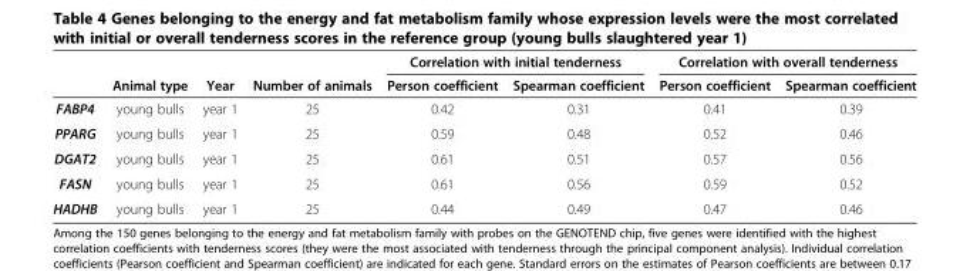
<table><thead><tr><td rowspan="2"></td><td rowspan="2">Animal type</td><td rowspan="2">Year</td><td rowspan="2">Number of animals</td><td colspan="2">Correlation with initial tenderness</td><td colspan="2">Correlation with overall tenderness</td></tr><tr><td>Person coefficient</td><td>Spearman coefficient</td><td>Person coefficient</td><td>Spearman coefficient</td></tr></thead><tbody><tr><td>FABP4</td><td>young bulls</td><td>year 1</td><td>25</td><td>0.42</td><td>0.31</td><td>0.41</td><td>0.39</td></tr><tr><td>PPARG</td><td>young bulls</td><td>year 1</td><td>25</td><td>0.59</td><td>0.48</td><td>0.52</td><td>0.46</td></tr><tr><td>DGAT2</td><td>young bulls</td><td>year 1</td><td>25</td><td>0.61</td><td>0.51</td><td>0.57</td><td>0.56</td></tr><tr><td>FASN</td><td>young bulls</td><td>year 1</td><td>25</td><td>0.61</td><td>0.56</td><td>0.59</td><td>0.52</td></tr><tr><td>HADHB</td><td>young bulls</td><td>year 1</td><td>25</td><td>0.44</td><td>0.49</td><td>0.47</td><td>0.46</td></tr></tbody></table>